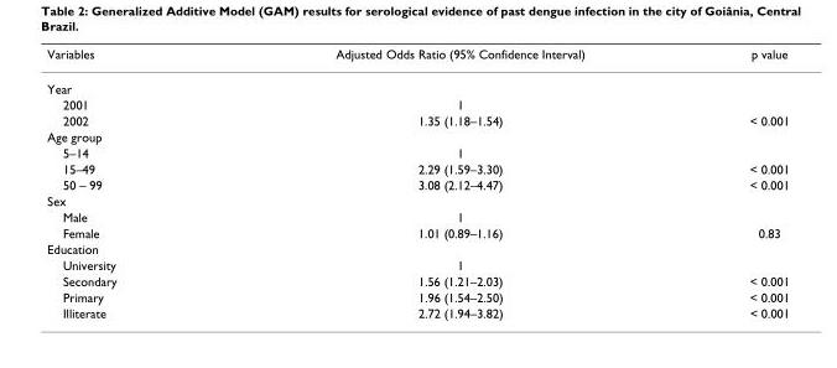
<table><thead><tr><td>Variables</td><td>Adjusted Odds Ratio (95% Confidence Interval)</td><td>p value</td></tr></thead><tbody><tr><td colspan="3">Year</td></tr><tr><td>2001</td><td>1</td><td></td></tr><tr><td>2002</td><td>1.35 (1.18–1.54)</td><td>&lt; 0.001</td></tr><tr><td colspan="3">Age group</td></tr><tr><td>5–14</td><td>1</td><td></td></tr><tr><td>15–49</td><td>2.29 (1.59–3.30)</td><td>&lt; 0.001</td></tr><tr><td>50 – 99</td><td>3.08 (2.12–4.47)</td><td>&lt; 0.001</td></tr><tr><td colspan="3">Sex</td></tr><tr><td>Male</td><td>1</td><td></td></tr><tr><td>Female</td><td>1.01 (0.89–1.16)</td><td>0.83</td></tr><tr><td colspan="3">Education</td></tr><tr><td>University</td><td>1</td><td></td></tr><tr><td>Secondary</td><td>1.56 (1.21–2.03)</td><td>&lt; 0.001</td></tr><tr><td>Primary</td><td>1.96 (1.54–2.50)</td><td>&lt; 0.001</td></tr><tr><td>Illiterate</td><td>2.72 (1.94–3.82)</td><td>&lt; 0.001</td></tr></tbody></table>